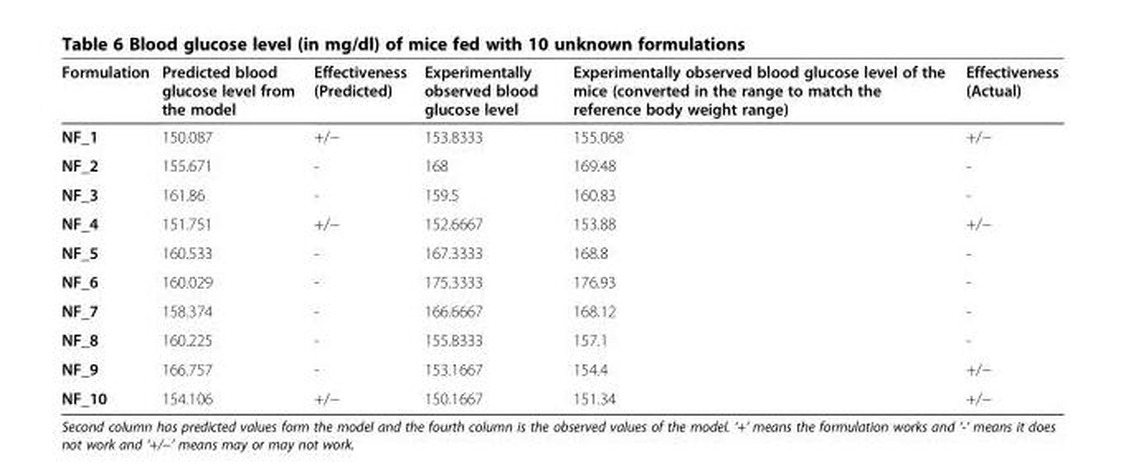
<table><thead><tr><td>Formulation</td><td>Predicted blood glucose level from the model</td><td>Effectiveness (Predicted)</td><td>Experimentally observed blood glucose level</td><td>Experimentally observed blood glucose level of the mice (converted in the range to match the reference body weight range)</td><td>Effectiveness (Actual)</td></tr></thead><tbody><tr><td>NF_1</td><td>150.087</td><td>+/−</td><td>153.8333</td><td>155.068</td><td>+/−</td></tr><tr><td>NF_2</td><td>155.671</td><td>-</td><td>168</td><td>169.48</td><td>-</td></tr><tr><td>NF_3</td><td>161.86</td><td>-</td><td>159.5</td><td>160.83</td><td>-</td></tr><tr><td>NF_4</td><td>151.751</td><td>+/−</td><td>152.6667</td><td>153.88</td><td>+/−</td></tr><tr><td>NF_5</td><td>160.533</td><td>-</td><td>167.3333</td><td>168.8</td><td>-</td></tr><tr><td>NF_6</td><td>160.029</td><td>-</td><td>175.3333</td><td>176.93</td><td>-</td></tr><tr><td>NF_7</td><td>158.374</td><td>-</td><td>166.6667</td><td>168.12</td><td>-</td></tr><tr><td>NF_8</td><td>160.225</td><td>-</td><td>155.8333</td><td>157.1</td><td>-</td></tr><tr><td>NF_9</td><td>166.757</td><td>-</td><td>153.1667</td><td>154.4</td><td>+/−</td></tr><tr><td>NF_10</td><td>154.106</td><td>+/−</td><td>150.1667</td><td>151.34</td><td>+/−</td></tr></tbody></table>